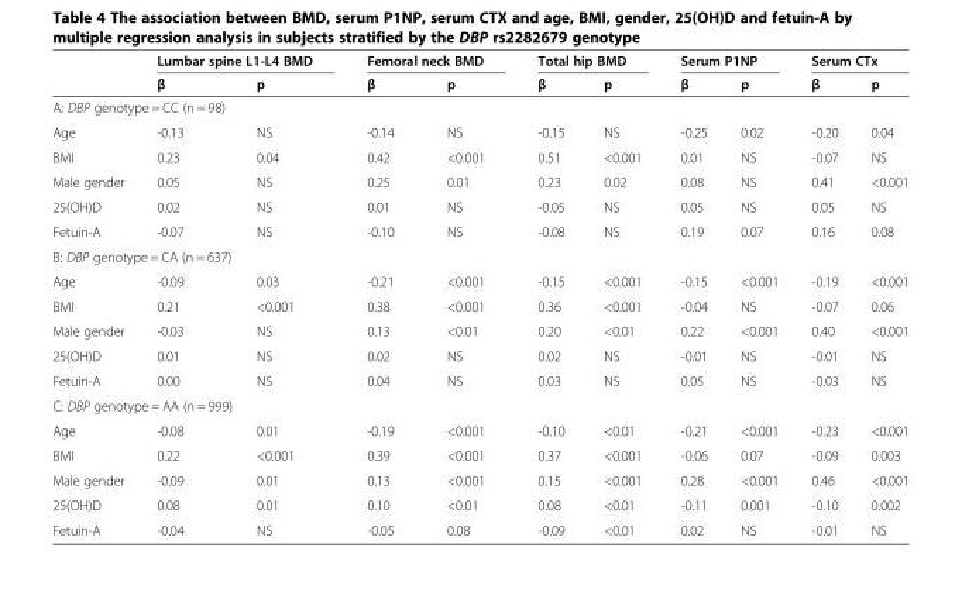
<table><thead><tr><td rowspan="2"></td><td colspan="2">Lumbar spine L1-L4 BMD</td><td colspan="2">Femoral neck BMD</td><td colspan="2">Total hip BMD</td><td colspan="2">Serum P1NP</td><td colspan="2">Serum CTx</td></tr><tr><td>β</td><td>p</td><td>β</td><td>p</td><td>β</td><td>p</td><td>β</td><td>p</td><td>β</td><td>p</td></tr></thead><tbody><tr><td colspan="11">A: DBP genotype = CC (n = 98)</td></tr><tr><td>Age</td><td>-0.13</td><td>NS</td><td>-0.14</td><td>NS</td><td>-0.15</td><td>NS</td><td>-0.25</td><td>0.02</td><td>-0.20</td><td>0.04</td></tr><tr><td>BMI</td><td>0.23</td><td>0.04</td><td>0.42</td><td>&lt;0.001</td><td>0.51</td><td>&lt;0.001</td><td>0.01</td><td>NS</td><td>-0.07</td><td>NS</td></tr><tr><td>Male gender</td><td>0.05</td><td>NS</td><td>0.25</td><td>0.01</td><td>0.23</td><td>0.02</td><td>0.08</td><td>NS</td><td>0.41</td><td>&lt;0.001</td></tr><tr><td>25(OH)D</td><td>0.02</td><td>NS</td><td>0.01</td><td>NS</td><td>-0.05</td><td>NS</td><td>0.05</td><td>NS</td><td>0.05</td><td>NS</td></tr><tr><td>Fetuin-A</td><td>-0.07</td><td>NS</td><td>-0.10</td><td>NS</td><td>-0.08</td><td>NS</td><td>0.19</td><td>0.07</td><td>0.16</td><td>0.08</td></tr><tr><td colspan="11">B: DBP genotype = CA (n = 637)</td></tr><tr><td>Age</td><td>-0.09</td><td>0.03</td><td>-0.21</td><td>&lt;0.001</td><td>-0.15</td><td>&lt;0.001</td><td>-0.15</td><td>&lt;0.001</td><td>-0.19</td><td>&lt;0.001</td></tr><tr><td>BMI</td><td>0.21</td><td>&lt;0.001</td><td>0.38</td><td>&lt;0.001</td><td>0.36</td><td>&lt;0.001</td><td>-0.04</td><td>NS</td><td>-0.07</td><td>0.06</td></tr><tr><td>Male gender</td><td>-0.03</td><td>NS</td><td>0.13</td><td>&lt;0.01</td><td>0.20</td><td>&lt;0.01</td><td>0.22</td><td>&lt;0.001</td><td>0.40</td><td>&lt;0.001</td></tr><tr><td>25(OH)D</td><td>0.01</td><td>NS</td><td>0.02</td><td>NS</td><td>0.02</td><td>NS</td><td>-0.01</td><td>NS</td><td>-0.01</td><td>NS</td></tr><tr><td>Fetuin-A</td><td>0.00</td><td>NS</td><td>0.04</td><td>NS</td><td>0.03</td><td>NS</td><td>0.05</td><td>NS</td><td>-0.03</td><td>NS</td></tr><tr><td colspan="11">C: DBP genotype = AA (n = 999)</td></tr><tr><td>Age</td><td>-0.08</td><td>0.01</td><td>-0.19</td><td>&lt;0.001</td><td>-0.10</td><td>&lt;0.01</td><td>-0.21</td><td>&lt;0.001</td><td>-0.23</td><td>&lt;0.001</td></tr><tr><td>BMI</td><td>0.22</td><td>&lt;0.001</td><td>0.39</td><td>&lt;0.001</td><td>0.37</td><td>&lt;0.001</td><td>-0.06</td><td>0.07</td><td>-0.09</td><td>0.003</td></tr><tr><td>Male gender</td><td>-0.09</td><td>0.01</td><td>0.13</td><td>&lt;0.001</td><td>0.15</td><td>&lt;0.001</td><td>0.28</td><td>&lt;0.001</td><td>0.46</td><td>&lt;0.001</td></tr><tr><td>25(OH)D</td><td>0.08</td><td>0.01</td><td>0.10</td><td>&lt;0.01</td><td>0.08</td><td>&lt;0.01</td><td>-0.11</td><td>0.001</td><td>-0.10</td><td>0.002</td></tr><tr><td>Fetuin-A</td><td>-0.04</td><td>NS</td><td>-0.05</td><td>0.08</td><td>-0.09</td><td>&lt;0.01</td><td>0.02</td><td>NS</td><td>-0.01</td><td>NS</td></tr></tbody></table>